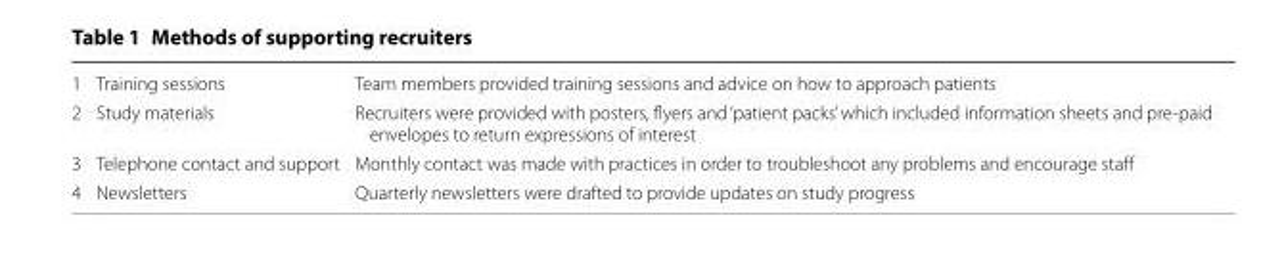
<table><tbody><tr><td>1</td><td>Training sessions</td><td>Team members provided training sessions and advice on how to approach patients</td></tr><tr><td>2</td><td>Study materials</td><td>Recruiters were provided with posters, flyers and ‘patient packs’ which included information sheets and pre-paid envelopes to return expressions of interest</td></tr><tr><td>3</td><td>Telephone contact and support</td><td>Monthly contact was made with practices in order to troubleshoot any problems and encourage staff</td></tr><tr><td>4</td><td>Newsletters</td><td>Quarterly newsletters were drafted to provide updates on study progress</td></tr></tbody></table>